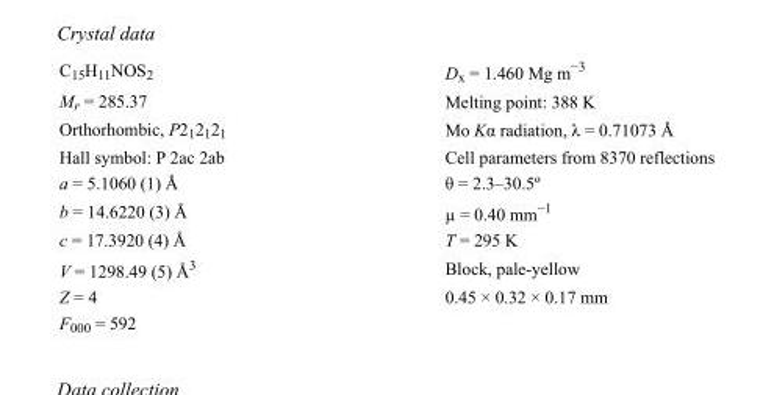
<table><tbody><tr><td>C<sub>15</sub>H<sub>11</sub>NOS<sub>2</sub></td><td>D<sub>x</sub> = 1.460 Mg m<sup>−3</sup></td></tr><tr><td>M<sub>r</sub> = 285.37</td><td>Melting point: 388 K</td></tr><tr><td>Orthorhombic, P2<sub>1</sub>2<sub>1</sub>2<sub>1</sub></td><td>Mo Kα radiation, λ = 0.71073 Å</td></tr><tr><td>Hall symbol: P 2ac 2ab</td><td>Cell parameters from 8370 reflections</td></tr><tr><td>a = 5.1060 (1) Å</td><td>θ = 2.3–30.5º</td></tr><tr><td>b = 14.6220 (3) Å</td><td>µ = 0.40 mm<sup>−1</sup></td></tr><tr><td>c = 17.3920 (4) Å</td><td>T = 295 K</td></tr><tr><td>V = 1298.49 (5) Å<sup>3</sup></td><td>Block, pale-yellow</td></tr><tr><td>Z = 4</td><td>0.45 × 0.32 × 0.17 mm</td></tr><tr><td>F000 = 592</td><td></td></tr></tbody></table>